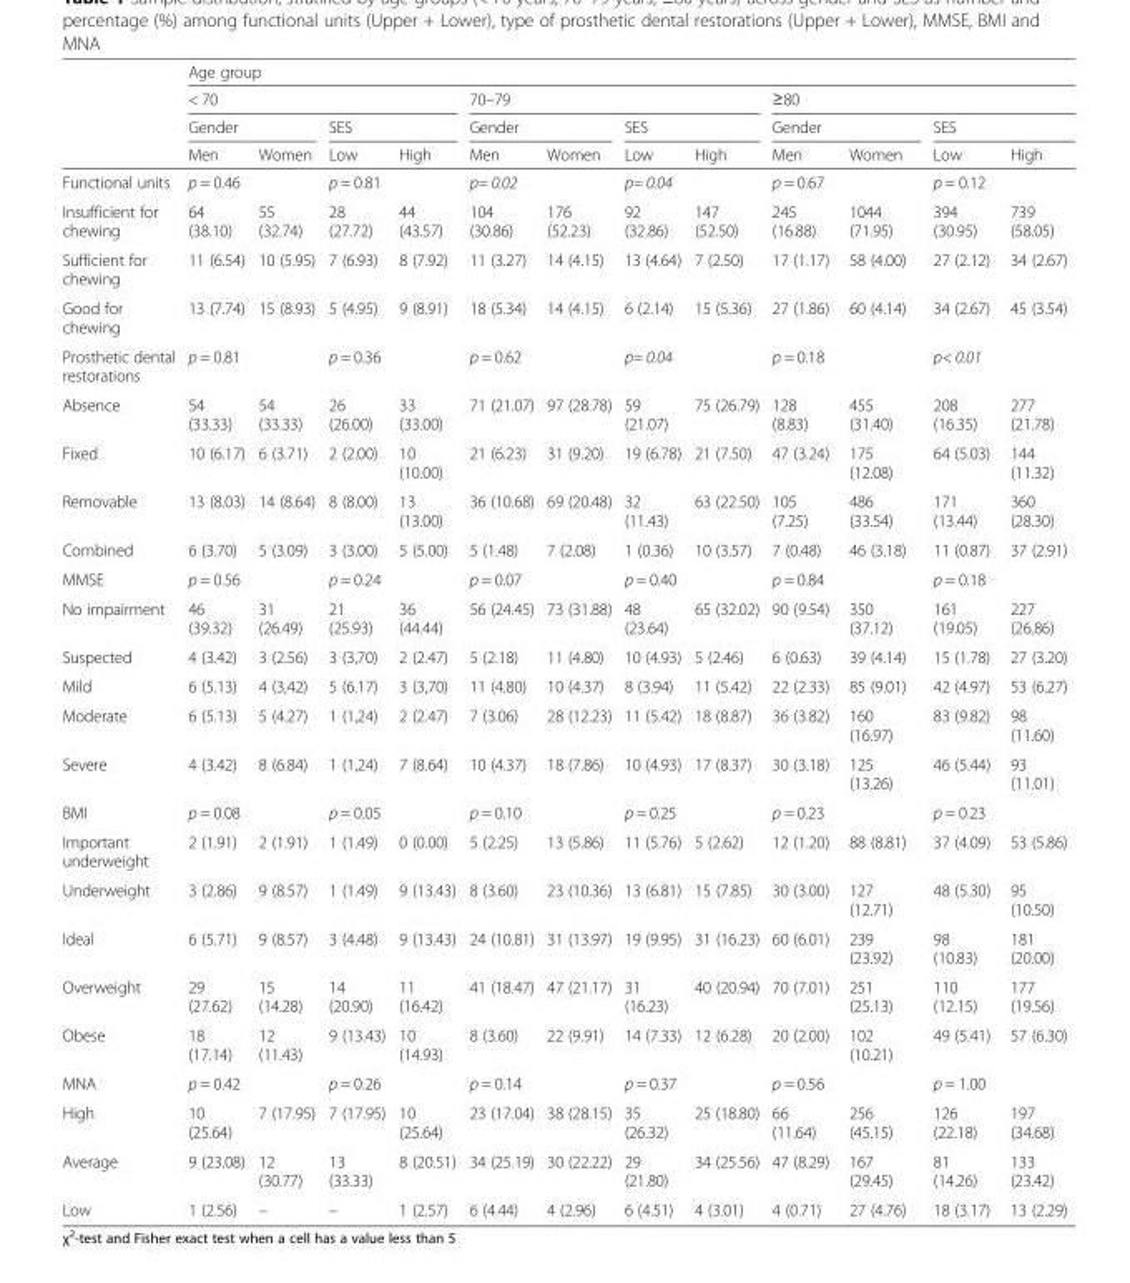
<table><thead><tr><td rowspan="4"></td><td colspan="12">Age group</td></tr><tr><td colspan="4">&lt; 70</td><td colspan="4">70–79</td><td colspan="4">≥80</td></tr><tr><td colspan="2">Gender</td><td colspan="2">SES</td><td colspan="2">Gender</td><td colspan="2">SES</td><td colspan="2">Gender</td><td colspan="2">SES</td></tr><tr><td>Men</td><td>Women</td><td>Low</td><td>High</td><td>Men</td><td>Women</td><td>Low</td><td>High</td><td>Men</td><td>Women</td><td>Low</td><td>High</td></tr></thead><tbody><tr><td>Functional units</td><td colspan="2">p = 0.46</td><td colspan="2">p = 0.81</td><td colspan="2">p= 0.02</td><td colspan="2">p= 0.04</td><td colspan="2">p = 0.67</td><td colspan="2">p = 0.12</td></tr><tr><td>Insufficient for chewing</td><td>64 (38.10)</td><td>55 (32.74)</td><td>28 (27.72)</td><td>44 (43.57)</td><td>104 (30.86)</td><td>176 (52.23)</td><td>92 (32.86)</td><td>147 (52.50)</td><td>245 (16.88)</td><td>1044 (71.95)</td><td>394 (30.95)</td><td>739 (58.05)</td></tr><tr><td>Sufficient for chewing</td><td>11 (6.54)</td><td>10 (5.95)</td><td>7 (6.93)</td><td>8 (7.92)</td><td>11 (3.27)</td><td>14 (4.15)</td><td>13 (4.64)</td><td>7 (2.50)</td><td>17 (1.17)</td><td>58 (4.00)</td><td>27 (2.12)</td><td>34 (2.67)</td></tr><tr><td>Good for chewing</td><td>13 (7.74)</td><td>15 (8.93)</td><td>5 (4.95)</td><td>9 (8.91)</td><td>18 (5.34)</td><td>14 (4.15)</td><td>6 (2.14)</td><td>15 (5.36)</td><td>27 (1.86)</td><td>60 (4.14)</td><td>34 (2.67)</td><td>45 (3.54)</td></tr><tr><td>Prosthetic dental restorations</td><td colspan="2">p = 0.81</td><td colspan="2">p = 0.36</td><td colspan="2">p = 0.62</td><td colspan="2">p= 0.04</td><td colspan="2">p = 0.18</td><td colspan="2">p&lt; 0.01</td></tr><tr><td>Absence</td><td>54 (33.33)</td><td>54 (33.33)</td><td>26 (26.00)</td><td>33 (33.00)</td><td>71 (21.07)</td><td>97 (28.78)</td><td>59 (21.07)</td><td>75 (26.79)</td><td>128 (8.83)</td><td>455 (31.40)</td><td>208 (16.35)</td><td>277 (21.78)</td></tr><tr><td>Fixed</td><td>10 (6.17)</td><td>6 (3.71)</td><td>2 (2.00)</td><td>10 (10.00)</td><td>21 (6.23)</td><td>31 (9.20)</td><td>19 (6.78)</td><td>21 (7.50)</td><td>47 (3.24)</td><td>175 (12.08)</td><td>64 (5.03)</td><td>144 (11.32)</td></tr><tr><td>Removable</td><td>13 (8.03)</td><td>14 (8.64)</td><td>8 (8.00)</td><td>13 (13.00)</td><td>36 (10.68)</td><td>69 (20.48)</td><td>32 (11.43)</td><td>63 (22.50)</td><td>105 (7.25)</td><td>486 (33.54)</td><td>171 (13.44)</td><td>360 (28.30)</td></tr><tr><td>Combined</td><td>6 (3.70)</td><td>5 (3.09)</td><td>3 (3.00)</td><td>5 (5.00)</td><td>5 (1.48)</td><td>7 (2.08)</td><td>1 (0.36)</td><td>10 (3.57)</td><td>7 (0.48)</td><td>46 (3.18)</td><td>11 (0.87)</td><td>37 (2.91)</td></tr><tr><td>MMSE</td><td colspan="2">p = 0.56</td><td colspan="2">p = 0.24</td><td colspan="2">p = 0.07</td><td colspan="2">p = 0.40</td><td colspan="2">p = 0.84</td><td colspan="2">p = 0.18</td></tr><tr><td>No impairment</td><td>46 (39.32)</td><td>31 (26.49)</td><td>21 (25.93)</td><td>36 (44.44)</td><td>56 (24.45)</td><td>73 (31.88)</td><td>48 (23.64)</td><td>65 (32.02)</td><td>90 (9.54)</td><td>350 (37.12)</td><td>161 (19.05)</td><td>227 (26.86)</td></tr><tr><td>Suspected</td><td>4 (3.42)</td><td>3 (2.56)</td><td>3 (3,70)</td><td>2 (2.47)</td><td>5 (2.18)</td><td>11 (4.80)</td><td>10 (4.93)</td><td>5 (2.46)</td><td>6 (0.63)</td><td>39 (4.14)</td><td>15 (1.78)</td><td>27 (3.20)</td></tr><tr><td>Mild</td><td>6 (5.13)</td><td>4 (3,42)</td><td>5 (6.17)</td><td>3 (3,70)</td><td>11 (4.80)</td><td>10 (4.37)</td><td>8 (3.94)</td><td>11 (5.42)</td><td>22 (2.33)</td><td>85 (9.01)</td><td>42 (4.97)</td><td>53 (6.27)</td></tr><tr><td>Moderate</td><td>6 (5.13)</td><td>5 (4.27)</td><td>1 (1,24)</td><td>2 (2.47)</td><td>7 (3.06)</td><td>28 (12.23)</td><td>11 (5.42)</td><td>18 (8.87)</td><td>36 (3.82)</td><td>160 (16.97)</td><td>83 (9.82)</td><td>98 (11.60)</td></tr><tr><td>Severe</td><td>4 (3.42)</td><td>8 (6.84)</td><td>1 (1,24)</td><td>7 (8.64)</td><td>10 (4.37)</td><td>18 (7.86)</td><td>10 (4.93)</td><td>17 (8.37)</td><td>30 (3.18)</td><td>125 (13.26)</td><td>46 (5.44)</td><td>93 (11.01)</td></tr><tr><td>BMI</td><td colspan="2">p = 0.08</td><td colspan="2">p = 0.05</td><td colspan="2">p = 0.10</td><td colspan="2">p = 0.25</td><td colspan="2">p = 0.23</td><td colspan="2">p = 0.23</td></tr><tr><td>Important underweight</td><td>2 (1.91)</td><td>2 (1.91)</td><td>1 (1.49)</td><td>0 (0.00)</td><td>5 (2.25)</td><td>13 (5.86)</td><td>11 (5.76)</td><td>5 (2.62)</td><td>12 (1.20)</td><td>88 (8.81)</td><td>37 (4.09)</td><td>53 (5.86)</td></tr><tr><td>Underweight</td><td>3 (2.86)</td><td>9 (8.57)</td><td>1 (1.49)</td><td>9 (13.43)</td><td>8 (3.60)</td><td>23 (10.36)</td><td>13 (6.81)</td><td>15 (7.85)</td><td>30 (3.00)</td><td>127 (12.71)</td><td>48 (5.30)</td><td>95 (10.50)</td></tr><tr><td>Ideal</td><td>6 (5.71)</td><td>9 (8.57)</td><td>3 (4.48)</td><td>9 (13.43)</td><td>24 (10.81)</td><td>31 (13.97)</td><td>19 (9.95)</td><td>31 (16.23)</td><td>60 (6.01)</td><td>239 (23.92)</td><td>98 (10.83)</td><td>181 (20.00)</td></tr><tr><td>Overweight</td><td>29 (27.62)</td><td>15 (14.28)</td><td>14 (20.90)</td><td>11 (16.42)</td><td>41 (18.47)</td><td>47 (21.17)</td><td>31 (16.23)</td><td>40 (20.94)</td><td>70 (7.01)</td><td>251 (25.13)</td><td>110 (12.15)</td><td>177 (19.56)</td></tr><tr><td>Obese</td><td>18 (17.14)</td><td>12 (11.43)</td><td>9 (13.43)</td><td>10 (14.93)</td><td>8 (3.60)</td><td>22 (9.91)</td><td>14 (7.33)</td><td>12 (6.28)</td><td>20 (2.00)</td><td>102 (10.21)</td><td>49 (5.41)</td><td>57 (6.30)</td></tr><tr><td>MNA</td><td colspan="2">p = 0.42</td><td colspan="2">p = 0.26</td><td colspan="2">p = 0.14</td><td colspan="2">p = 0.37</td><td colspan="2">p = 0.56</td><td colspan="2">p = 1.00</td></tr><tr><td>High</td><td>10 (25.64)</td><td>7 (17.95)</td><td>7 (17.95)</td><td>10 (25.64)</td><td>23 (17.04)</td><td>38 (28.15)</td><td>35 (26.32)</td><td>25 (18.80)</td><td>66 (11.64)</td><td>256 (45.15)</td><td>126 (22.18)</td><td>197 (34.68)</td></tr><tr><td>Average</td><td>9 (23.08)</td><td>12 (30.77)</td><td>13 (33.33)</td><td>8 (20.51)</td><td>34 (25.19)</td><td>30 (22.22)</td><td>29 (21.80)</td><td>34 (25.56)</td><td>47 (8.29)</td><td>167 (29.45)</td><td>81 (14.26)</td><td>133 (23.42)</td></tr><tr><td>Low</td><td>1 (2.56)</td><td>–</td><td>–</td><td>1 (2.57)</td><td>6 (4.44)</td><td>4 (2.96)</td><td>6 (4.51)</td><td>4 (3.01)</td><td>4 (0.71)</td><td>27 (4.76)</td><td>18 (3.17)</td><td>13 (2.29)</td></tr></tbody></table>